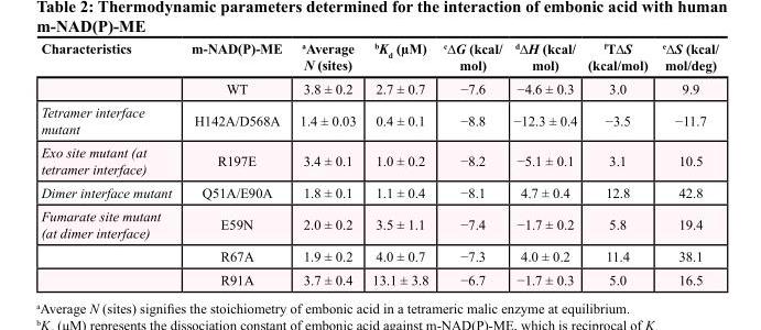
<table><thead><tr><td>Characteristics</td><td>m-NAD(P)-ME</td><td><sup>a</sup>Average N (sites)</td><td><sup>b</sup>K<sub>d</sub> (μM)</td><td>c∆G (kcal/ mol)</td><td>d∆H (kcal/ mol)</td><td>fT∆S (kcal/mol)</td><td>e∆S (kcal/ mol/deg)</td></tr></thead><tbody><tr><td></td><td>WT</td><td>3.8 ± 0.2</td><td>2.7 ± 0.7</td><td>−7.6</td><td>−4.6 ± 0.3</td><td>3.0</td><td>9.9</td></tr><tr><td>Tetramer interface mutant</td><td>H142A/D568A</td><td>1.4 ± 0.03</td><td>0.4 ± 0.1</td><td>−8.8</td><td>−12.3 ± 0.4</td><td>−3.5</td><td>−11.7</td></tr><tr><td>Exo site mutant (at tetramer interface)</td><td>R197E</td><td>3.4 ± 0.1</td><td>1.0 ± 0.2</td><td>−8.2</td><td>−5.1 ± 0.1</td><td>3.1</td><td>10.5</td></tr><tr><td>Dimer interface mutant</td><td>Q51A/E90A</td><td>1.8 ± 0.1</td><td>1.1 ± 0.4</td><td>−8.1</td><td>4.7 ± 0.4</td><td>12.8</td><td>42.8</td></tr><tr><td rowspan="3">Fumarate site mutant (at dimer interface)</td><td>E59N</td><td>2.0 ± 0.2</td><td>3.5 ± 1.1</td><td>−7.4</td><td>−1.7 ± 0.2</td><td>5.8</td><td>19.4</td></tr><tr><td>R67A</td><td>1.9 ± 0.2</td><td>4.0 ± 0.7</td><td>−7.3</td><td>4.0 ± 0.2</td><td>11.4</td><td>38.1</td></tr><tr><td>R91A</td><td>3.7 ± 0.4</td><td>13.1 ± 3.8</td><td>−6.7</td><td>−1.7 ± 0.3</td><td>5.0</td><td>16.5</td></tr></tbody></table>